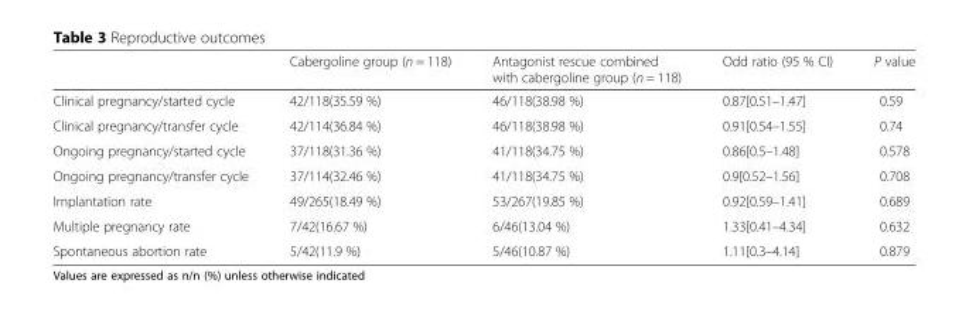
<table><thead><tr><td></td><td>Cabergoline group (n = 118)</td><td>Antagonist rescue combined with cabergoline group (n = 118)</td><td>Odd ratio (95 % CI)</td><td>P value</td></tr></thead><tbody><tr><td>Clinical pregnancy/started cycle</td><td>42/118(35.59 %)</td><td>46/118(38.98 %)</td><td>0.87[0.51–1.47]</td><td>0.59</td></tr><tr><td>Clinical pregnancy/transfer cycle</td><td>42/114(36.84 %)</td><td>46/118(38.98 %)</td><td>0.91[0.54–1.55]</td><td>0.74</td></tr><tr><td>Ongoing pregnancy/started cycle</td><td>37/118(31.36 %)</td><td>41/118(34.75 %)</td><td>0.86[0.5–1.48]</td><td>0.578</td></tr><tr><td>Ongoing pregnancy/transfer cycle</td><td>37/114(32.46 %)</td><td>41/118(34.75 %)</td><td>0.9[0.52–1.56]</td><td>0.708</td></tr><tr><td>Implantation rate</td><td>49/265(18.49 %)</td><td>53/267(19.85 %)</td><td>0.92[0.59–1.41]</td><td>0.689</td></tr><tr><td>Multiple pregnancy rate</td><td>7/42(16.67 %)</td><td>6/46(13.04 %)</td><td>1.33[0.41–4.34]</td><td>0.632</td></tr><tr><td>Spontaneous abortion rate</td><td>5/42(11.9 %)</td><td>5/46(10.87 %)</td><td>1.11[0.3–4.14]</td><td>0.879</td></tr></tbody></table>